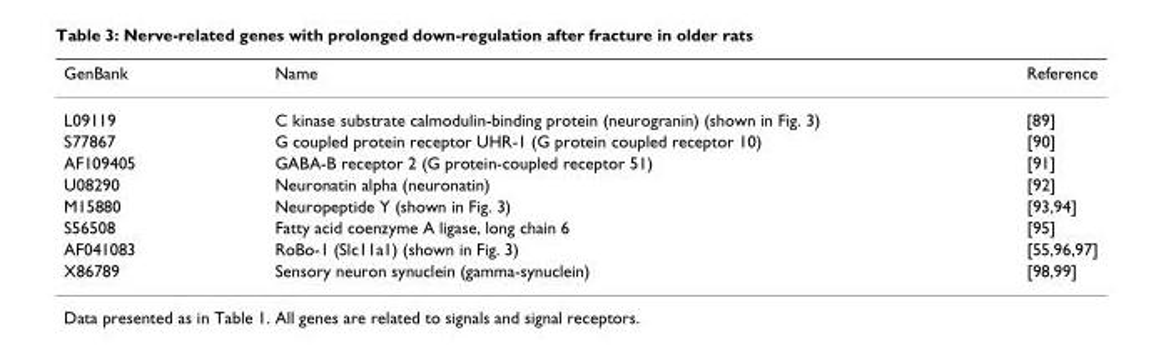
<table><thead><tr><td>GenBank</td><td>Name</td><td>Reference</td></tr></thead><tbody><tr><td>L09119</td><td>C kinase substrate calmodulin-binding protein (neurogranin) (shown in Fig. 3)</td><td>[89]</td></tr><tr><td>S77867</td><td>G coupled protein receptor UHR-1 (G protein coupled receptor 10)</td><td>[90]</td></tr><tr><td>AF109405</td><td>GABA-B receptor 2 (G protein-coupled receptor 51)</td><td>[91]</td></tr><tr><td>U08290</td><td>Neuronatin alpha (neuronatin)</td><td>[92]</td></tr><tr><td>M15880</td><td>Neuropeptide Y (shown in Fig. 3)</td><td>[93,94]</td></tr><tr><td>S56508</td><td>Fatty acid coenzyme A ligase, long chain 6</td><td>[95]</td></tr><tr><td>AF041083</td><td>RoBo-1 (Slc11a1) (shown in Fig. 3)</td><td>[55,96,97]</td></tr><tr><td>X86789</td><td>Sensory neuron synuclein (gamma-synuclein)</td><td>[98,99]</td></tr></tbody></table>